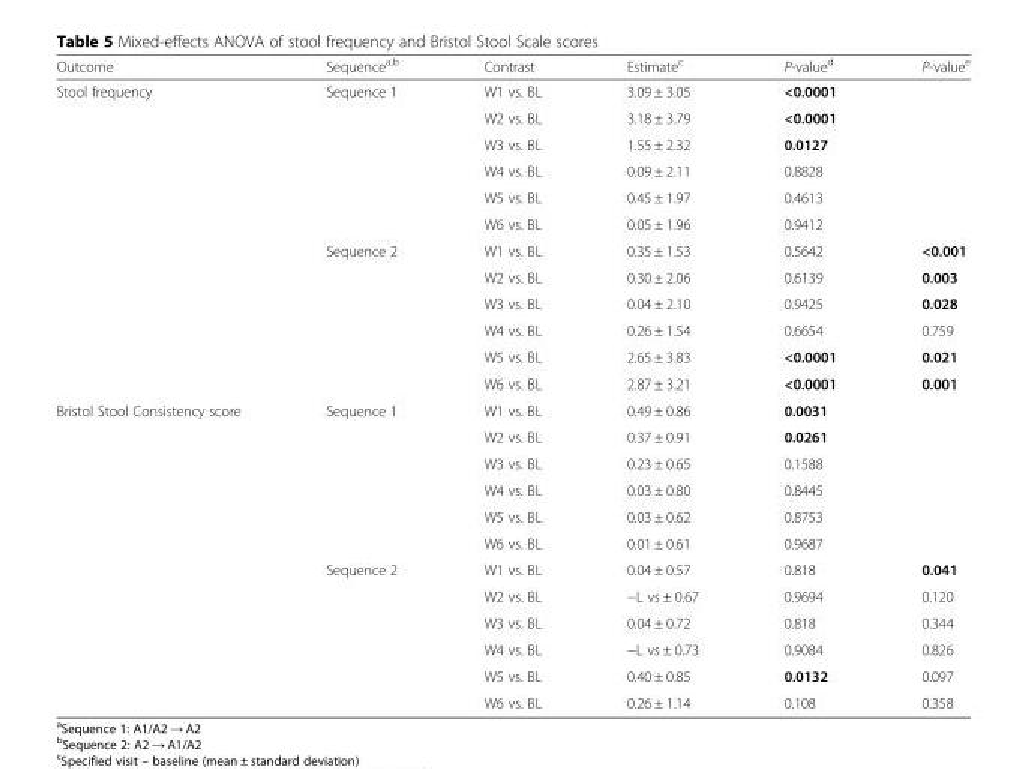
<table><thead><tr><td>Outcome</td><td>Sequence<sup>a,b</sup></td><td>Contrast</td><td>Estimate<sup>c</sup></td><td>P-value<sup>d</sup></td><td>P-value<sup>e</sup></td></tr></thead><tbody><tr><td rowspan="12">Stool frequency</td><td rowspan="6">Sequence 1</td><td>W1 vs. BL</td><td>3.09 ± 3.05</td><td>&lt;0.0001</td><td></td></tr><tr><td>W2 vs. BL</td><td>3.18 ± 3.79</td><td>&lt;0.0001</td><td></td></tr><tr><td>W3 vs. BL</td><td>1.55 ± 2.32</td><td>0.0127</td><td></td></tr><tr><td>W4 vs. BL</td><td>0.09 ± 2.11</td><td>0.8828</td><td></td></tr><tr><td>W5 vs. BL</td><td>0.45 ± 1.97</td><td>0.4613</td><td></td></tr><tr><td>W6 vs. BL</td><td>0.05 ± 1.96</td><td>0.9412</td><td></td></tr><tr><td rowspan="6">Sequence 2</td><td>W1 vs. BL</td><td>0.35 ± 1.53</td><td>0.5642</td><td>&lt;0.001</td></tr><tr><td>W2 vs. BL</td><td>0.30 ± 2.06</td><td>0.6139</td><td>0.003</td></tr><tr><td>W3 vs. BL</td><td>0.04 ± 2.10</td><td>0.9425</td><td>0.028</td></tr><tr><td>W4 vs. BL</td><td>0.26 ± 1.54</td><td>0.6654</td><td>0.759</td></tr><tr><td>W5 vs. BL</td><td>2.65 ± 3.83</td><td>&lt;0.0001</td><td>0.021</td></tr><tr><td>W6 vs. BL</td><td>2.87 ± 3.21</td><td>&lt;0.0001</td><td>0.001</td></tr><tr><td rowspan="12">Bristol Stool Consistency score</td><td rowspan="6">Sequence 1</td><td>W1 vs. BL</td><td>0.49 ± 0.86</td><td>0.0031</td><td></td></tr><tr><td>W2 vs. BL</td><td>0.37 ± 0.91</td><td>0.0261</td><td></td></tr><tr><td>W3 vs. BL</td><td>0.23 ± 0.65</td><td>0.1588</td><td></td></tr><tr><td>W4 vs. BL</td><td>0.03 ± 0.80</td><td>0.8445</td><td></td></tr><tr><td>W5 vs. BL</td><td>0.03 ± 0.62</td><td>0.8753</td><td></td></tr><tr><td>W6 vs. BL</td><td>0.01 ± 0.61</td><td>0.9687</td><td></td></tr><tr><td rowspan="6">Sequence 2</td><td>W1 vs. BL</td><td>0.04 ± 0.57</td><td>0.818</td><td>0.041</td></tr><tr><td>W2 vs. BL</td><td>−L vs ± 0.67</td><td>0.9694</td><td>0.120</td></tr><tr><td>W3 vs. BL</td><td>0.04 ± 0.72</td><td>0.818</td><td>0.344</td></tr><tr><td>W4 vs. BL</td><td>−L vs ± 0.73</td><td>0.9084</td><td>0.826</td></tr><tr><td>W5 vs. BL</td><td>0.40 ± 0.85</td><td>0.0132</td><td>0.097</td></tr><tr><td>W6 vs. BL</td><td>0.26 ± 1.14</td><td>0.108</td><td>0.358</td></tr></tbody></table>